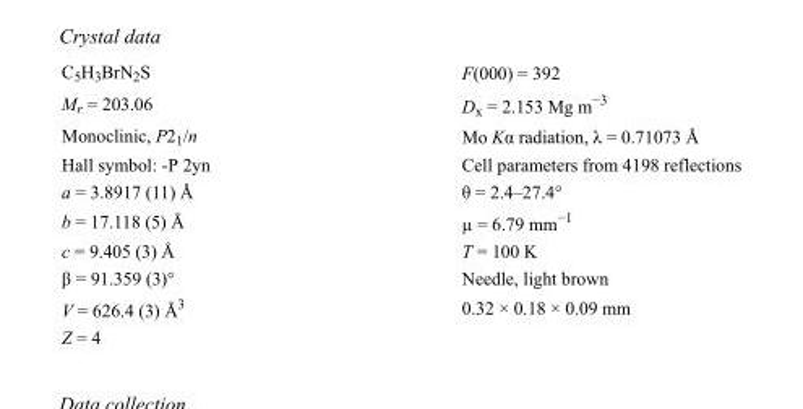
<table><tbody><tr><td>C<sub>5</sub>H<sub>3</sub>BrN<sub>2</sub>S</td><td>F(000) = 392</td></tr><tr><td>M<sub>r</sub> = 203.06</td><td>D<sub>x</sub> = 2.153 Mg m<sup>−3</sup></td></tr><tr><td>Monoclinic, P2<sub>1</sub>/n</td><td>Mo Kα radiation, λ = 0.71073 Å</td></tr><tr><td>Hall symbol: -P 2yn</td><td>Cell parameters from 4198 reflections</td></tr><tr><td>a = 3.8917 (11) Å</td><td>θ = 2.4–27.4°</td></tr><tr><td>b = 17.118 (5) Å</td><td>µ = 6.79 mm<sup>−1</sup></td></tr><tr><td>c = 9.405 (3) Å</td><td>T = 100 K</td></tr><tr><td>β = 91.359 (3)°</td><td>Needle, light brown</td></tr><tr><td>V = 626.4 (3) Å<sup>3</sup></td><td>0.32 × 0.18 × 0.09 mm</td></tr><tr><td>Z = 4</td><td></td></tr></tbody></table>